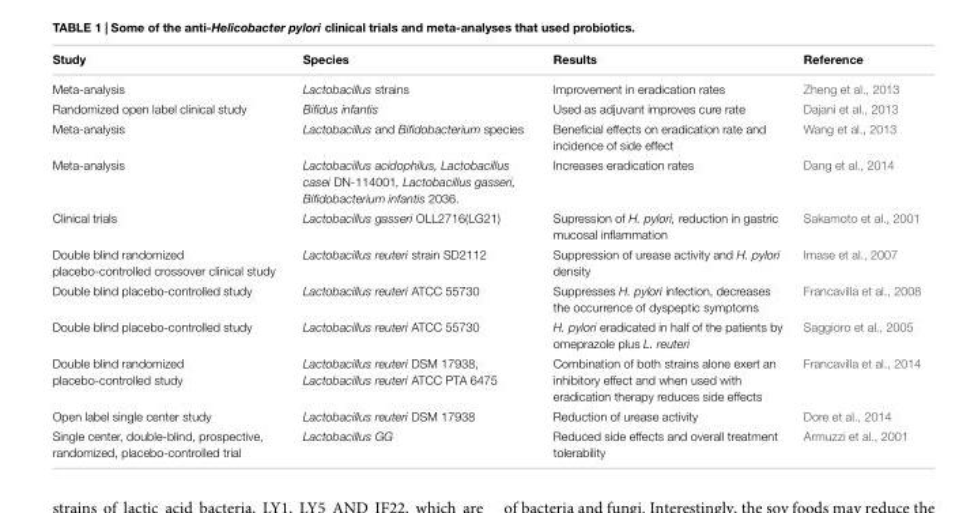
<table><thead><tr><td>Study</td><td>Species</td><td>Results</td><td>Reference</td></tr></thead><tbody><tr><td>Meta-analysis</td><td>Lactobacillus strains</td><td>Improvement in eradication rates</td><td>Zheng et al., 2013</td></tr><tr><td>Randomized open label clinical study</td><td>Bifidus infantis</td><td>Used as adjuvant improves cure rate</td><td>Dajani et al., 2013</td></tr><tr><td>Meta-analysis</td><td>Lactobacillus and Bifidobacterium species</td><td>Beneficial effects on eradication rate and incidence of side effect</td><td>Wang et al., 2013</td></tr><tr><td>Meta-analysis</td><td>Lactobacillus acidophilus, Lactobacillus casei DN-114001, Lactobacillus gasseri, Bifidobacterium infantis 2036.</td><td>Increases eradication rates</td><td>Dang et al., 2014</td></tr><tr><td>Clinical trials</td><td>Lactobacillus gasseri OLL2716(LG21)</td><td>Supression of H. pylori, reduction in gastric mucosal inflammation</td><td>Sakamoto et al., 2001</td></tr><tr><td>Double blind randomized placebo-controlled crossover clinical study</td><td>Lactobacillus reuteri strain SD2112</td><td>Suppression of urease activity and H. pylori density</td><td>Imase et al., 2007</td></tr><tr><td>Double blind placebo-controlled study</td><td>Lactobacillus reuteri ATCC 55730</td><td>Suppresses H. pylori infection, decreases the occurrence of dyspeptic symptoms</td><td>Francavilla et al., 2008</td></tr><tr><td>Double blind placebo-controlled study</td><td>Lactobacillus reuteri ATCC 55730</td><td>H. pylori eradicated in half of the patients by omeprazole plus L. reuteri</td><td>Saggioro et al., 2005</td></tr><tr><td>Double blind randomized placebo-controlled study</td><td>Lactobacillus reuteri DSM 17938, Lactobacillus reuteri ATCC PTA 6475</td><td>Combination of both strains alone exert an inhibitory effect and when used with eradication therapy reduces side effects</td><td>Francavilla et al., 2014</td></tr><tr><td>Open label single center study</td><td>Lactobacillus reuteri DSM 17938</td><td>Reduction of urease activity</td><td>Dore et al., 2014</td></tr><tr><td>Single center, double-blind, prospective, randomized, placebo-controlled trial</td><td>Lactobacillus GG</td><td>Reduced side effects and overall treatment tolerability</td><td>Armuzzi et al., 2001</td></tr></tbody></table>